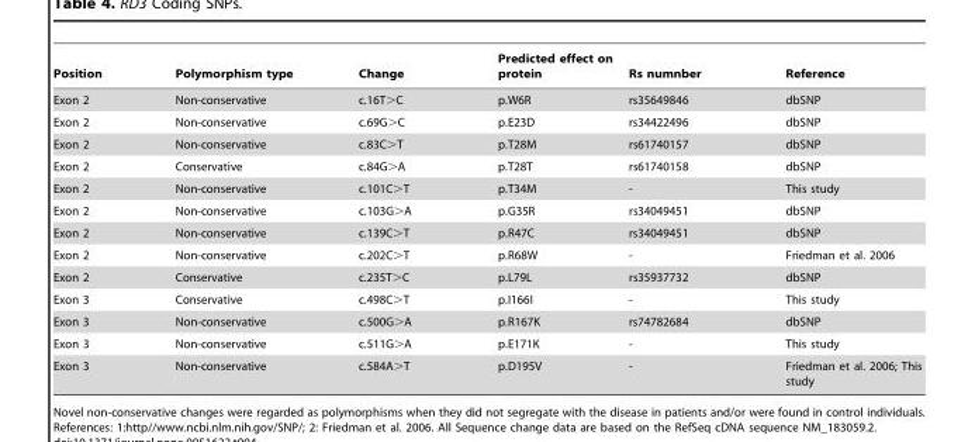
<table><thead><tr><td>Position</td><td>Polymorphism type</td><td>Change</td><td>Predicted effect on protein</td><td>Rs numnber</td><td>Reference</td></tr></thead><tbody><tr><td>Exon 2</td><td>Non-conservative</td><td>c.16T&gt;C</td><td>p.W6R</td><td>rs35649846</td><td>dbSNP</td></tr><tr><td>Exon 2</td><td>Non-conservative</td><td>c.69G&gt;C</td><td>p.E23D</td><td>rs34422496</td><td>dbSNP</td></tr><tr><td>Exon 2</td><td>Non-conservative</td><td>c.83C&gt;T</td><td>p.T28M</td><td>rs61740157</td><td>dbSNP</td></tr><tr><td>Exon 2</td><td>Conservative</td><td>c.84G&gt;A</td><td>p.T28T</td><td>rs61740158</td><td>dbSNP</td></tr><tr><td>Exon 2</td><td>Non-conservative</td><td>c.101C&gt;T</td><td>p.T34M</td><td>-</td><td>This study</td></tr><tr><td>Exon 2</td><td>Non-conservative</td><td>c.103G&gt;A</td><td>p.G35R</td><td>rs34049451</td><td>dbSNP</td></tr><tr><td>Exon 2</td><td>Non-conservative</td><td>c.139C&gt;T</td><td>p.R47C</td><td>rs34049451</td><td>dbSNP</td></tr><tr><td>Exon 2</td><td>Non-conservative</td><td>c.202C&gt;T</td><td>p.R68W</td><td>-</td><td>Friedman et al. 2006</td></tr><tr><td>Exon 2</td><td>Conservative</td><td>c.235T&gt;C</td><td>p.L79L</td><td>rs35937732</td><td>dbSNP</td></tr><tr><td>Exon 3</td><td>Conservative</td><td>c.498C&gt;T</td><td>p.I166I</td><td>-</td><td>This study</td></tr><tr><td>Exon 3</td><td>Non-conservative</td><td>c.500G&gt;A</td><td>p.R167K</td><td>rs74782684</td><td>dbSNP</td></tr><tr><td>Exon 3</td><td>Non-conservative</td><td>c.511G&gt;A</td><td>p.E171K</td><td>-</td><td>This study</td></tr><tr><td>Exon 3</td><td>Non-conservative</td><td>c.584A&gt;T</td><td>p.D195V</td><td>-</td><td>Friedman et al. 2006; This study</td></tr></tbody></table>